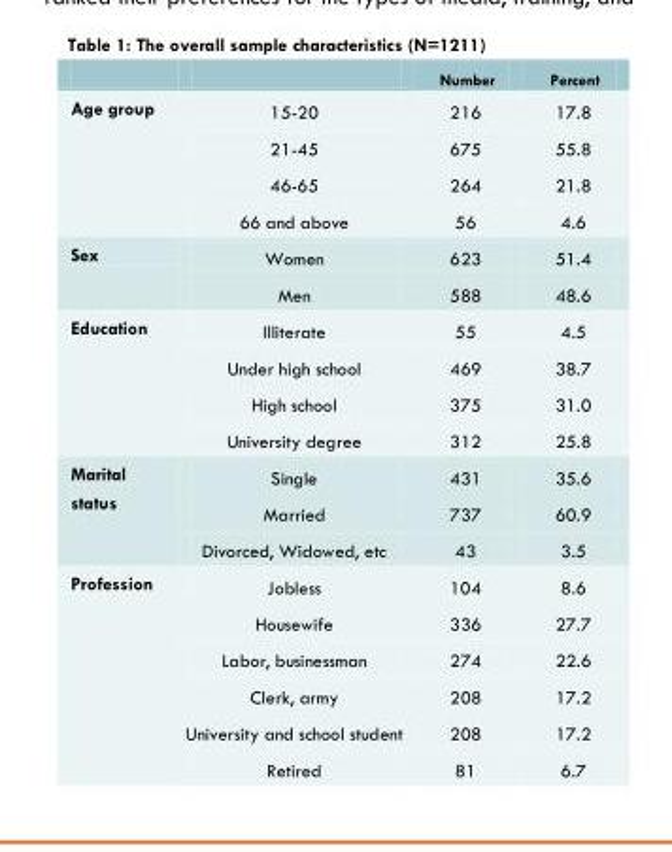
<table><thead><tr><td></td><td></td><td>Number</td><td>Percent</td></tr></thead><tbody><tr><td rowspan="4">Age group</td><td>15-20</td><td>216</td><td>17.8</td></tr><tr><td>21-45</td><td>675</td><td>55.8</td></tr><tr><td>46-65</td><td>264</td><td>21.8</td></tr><tr><td>66 and above</td><td>56</td><td>4.6</td></tr><tr><td rowspan="2">Sex</td><td>Women</td><td>623</td><td>51.4</td></tr><tr><td>Men</td><td>588</td><td>48.6</td></tr><tr><td rowspan="4">Education</td><td>Illiterate</td><td>55</td><td>4.5</td></tr><tr><td>Under high school</td><td>469</td><td>38.7</td></tr><tr><td>High school</td><td>375</td><td>31.0</td></tr><tr><td>University degree</td><td>312</td><td>25.8</td></tr><tr><td rowspan="3">Marital status</td><td>Single</td><td>431</td><td>35.6</td></tr><tr><td>Married</td><td>737</td><td>60.9</td></tr><tr><td>Divorced, Widowed, etc</td><td>43</td><td>3.5</td></tr><tr><td rowspan="6">Profession</td><td>Jobless</td><td>104</td><td>8.6</td></tr><tr><td>Housewife</td><td>336</td><td>27.7</td></tr><tr><td>Labor, businessman</td><td>274</td><td>22.6</td></tr><tr><td>Clerk, army</td><td>208</td><td>17.2</td></tr><tr><td>University and school student</td><td>208</td><td>17.2</td></tr><tr><td>Retired</td><td>81</td><td>6.7</td></tr></tbody></table>